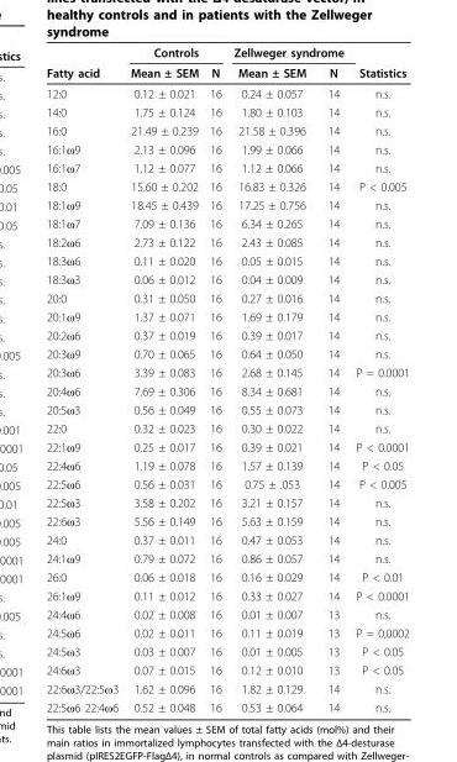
<table><thead><tr><td rowspan="2">Fatty acid</td><td colspan="2">Controls</td><td colspan="2">Zellweger syndrome</td><td rowspan="2">Statistics</td></tr><tr><td>Mean ± SEM</td><td>N</td><td>Mean ± SEM</td><td>N</td></tr></thead><tbody><tr><td>12:0</td><td>0.12 ± 0.021</td><td>16</td><td>0.24 ± 0.057</td><td>14</td><td>n.s.</td></tr><tr><td>14:0</td><td>1.75 ± 0.124</td><td>16</td><td>1.80 ± 0.103</td><td>14</td><td>n.s.</td></tr><tr><td>16:0</td><td>21.49 ± 0.239</td><td>16</td><td>21.58 ± 0.396</td><td>14</td><td>n.s.</td></tr><tr><td>16:1ω9</td><td>2.13 ± 0.096</td><td>16</td><td>1.99 ± 0.066</td><td>14</td><td>n.s.</td></tr><tr><td>16:1ω7</td><td>1.12 ± 0.077</td><td>16</td><td>1.12 ± 0.066</td><td>14</td><td>n.s.</td></tr><tr><td>18:0</td><td>15.60 ± 0.202</td><td>16</td><td>16.83 ± 0.326</td><td>14</td><td>P &lt; 0.005</td></tr><tr><td>18:1ω9</td><td>18.45 ± 0.439</td><td>16</td><td>17.25 ± 0.756</td><td>14</td><td>n.s.</td></tr><tr><td>18:1ω7</td><td>7.09 ± 0.136</td><td>16</td><td>6.34 ± 0.265</td><td>14</td><td>n.s.</td></tr><tr><td>18:2ω6</td><td>2.73 ± 0.122</td><td>16</td><td>2.43 ± 0.085</td><td>14</td><td>n.s.</td></tr><tr><td>18:3ω6</td><td>0.11 ± 0.020</td><td>16</td><td>0.05 ± 0.015</td><td>14</td><td>n.s.</td></tr><tr><td>18:3ω3</td><td>0.06 ± 0.012</td><td>16</td><td>0.04 ± 0.009</td><td>14</td><td>n.s.</td></tr><tr><td>20:0</td><td>0.31 ± 0.050</td><td>16</td><td>0.27 ± 0.016</td><td>14</td><td>n.s.</td></tr><tr><td>20:1ω9</td><td>1.37 ± 0.071</td><td>16</td><td>1.69 ± 0.179</td><td>14</td><td>n.s.</td></tr><tr><td>20:2ω6</td><td>0.37 ± 0.019</td><td>16</td><td>0.39 ± 0.017</td><td>14</td><td>n.s.</td></tr><tr><td>20:3ω9</td><td>0.70 ± 0.065</td><td>16</td><td>0.64 ± 0.050</td><td>14</td><td>n.s.</td></tr><tr><td>20:3ω6</td><td>3.39 ± 0.083</td><td>16</td><td>2.68 ± 0.145</td><td>14</td><td>P = 0.0001</td></tr><tr><td>20:4ω6</td><td>7.69 ± 0.306</td><td>16</td><td>8.34 ± 0.681</td><td>14</td><td>n.s.</td></tr><tr><td>20:5ω3</td><td>0.56 ± 0.049</td><td>16</td><td>0.55 ± 0.073</td><td>14</td><td>n.s.</td></tr><tr><td>22:0</td><td>0.32 ± 0.023</td><td>16</td><td>0.30 ± 0.022</td><td>14</td><td>n.s.</td></tr><tr><td>22:1ω9</td><td>0.25 ± 0.017</td><td>16</td><td>0.39 ± 0.021</td><td>14</td><td>P &lt; 0.0001</td></tr><tr><td>22:4ω6</td><td>1.19 ± 0.078</td><td>16</td><td>1.57 ± 0.139</td><td>14</td><td>P &lt; 0.05</td></tr><tr><td>22:5ω6</td><td>0.56 ± 0.031</td><td>16</td><td>0.75 ± .053</td><td>14</td><td>P &lt; 0.005</td></tr><tr><td>22:5ω3</td><td>3.58 ± 0.202</td><td>16</td><td>3.21 ± 0.157</td><td>14</td><td>n.s.</td></tr><tr><td>22:6ω3</td><td>5.56 ± 0.149</td><td>16</td><td>5.63 ± 0.159</td><td>14</td><td>n.s.</td></tr><tr><td>24:0</td><td>0.37 ± 0.011</td><td>16</td><td>0.47 ± 0.053</td><td>14</td><td>n.s.</td></tr><tr><td>24:1ω9</td><td>0.79 ± 0.072</td><td>16</td><td>0.86 ± 0.057</td><td>14</td><td>n.s.</td></tr><tr><td>26:0</td><td>0.06 ± 0.018</td><td>16</td><td>0.16 ± 0.029</td><td>14</td><td>P &lt; 0.01</td></tr><tr><td>26:1ω9</td><td>0.11 ± 0.012</td><td>16</td><td>0.33 ± 0.027</td><td>14</td><td>P &lt; 0.0001</td></tr><tr><td>24:4ω6</td><td>0.02 ± 0.008</td><td>16</td><td>0.01 ± 0.007</td><td>13</td><td>n.s.</td></tr><tr><td>24:5ω6</td><td>0.02 ± 0.011</td><td>16</td><td>0.11 ± 0.019</td><td>13</td><td>P = 0,0002</td></tr><tr><td>24:5ω3</td><td>0.03 ± 0.007</td><td>16</td><td>0.01 ± 0.005</td><td>13</td><td>P &lt; 0.05</td></tr><tr><td>24:6ω3</td><td>0.07 ± 0.015</td><td>16</td><td>0.12 ± 0.010</td><td>13</td><td>P &lt; 0.05</td></tr><tr><td>22:6ω3/22:5ω3</td><td>1.62 ± 0.096</td><td>16</td><td>1.82 ± 0.129</td><td>14</td><td>n.s.</td></tr><tr><td>22:5ω6 22:4ω6</td><td>0.52 ± 0.048</td><td>16</td><td>0.53 ± 0.064</td><td>14</td><td>n.s.</td></tr></tbody></table>